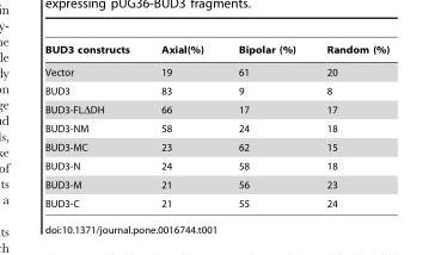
<table><thead><tr><td>BUD3 constructs</td><td>Axial(%)</td><td>Bipolar (%)</td><td>Random (%)</td></tr></thead><tbody><tr><td>Vector</td><td>19</td><td>61</td><td>20</td></tr><tr><td>BUD3</td><td>83</td><td>9</td><td>8</td></tr><tr><td>BUD3-FLΔDH</td><td>66</td><td>17</td><td>17</td></tr><tr><td>BUD3-NM</td><td>58</td><td>24</td><td>18</td></tr><tr><td>BUD3-MC</td><td>23</td><td>62</td><td>15</td></tr><tr><td>BUD3-N</td><td>24</td><td>58</td><td>18</td></tr><tr><td>BUD3-M</td><td>21</td><td>56</td><td>23</td></tr><tr><td>BUD3-C</td><td>21</td><td>55</td><td>24</td></tr></tbody></table>